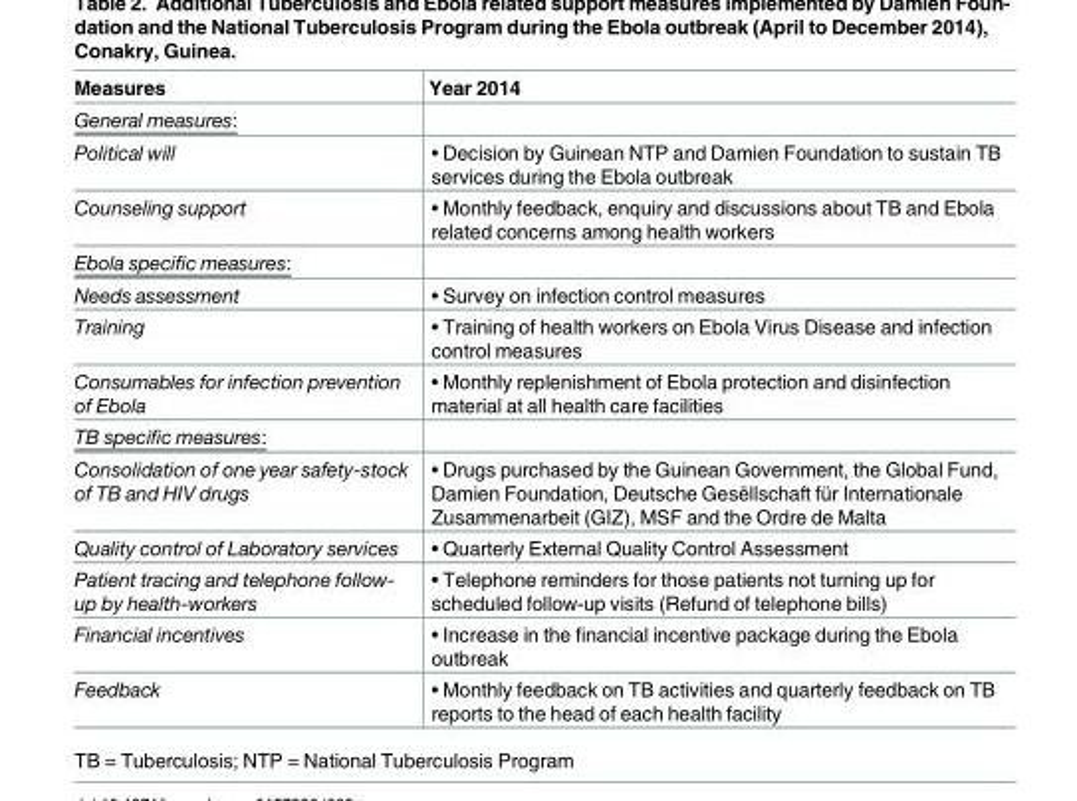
<table><thead><tr><td>Measures</td><td>Year 2014</td></tr></thead><tbody><tr><td colspan="2">General measures:</td></tr><tr><td>Political will</td><td>• Decision by Guinean NTP and Damien Foundation to sustain TB services during the Ebola outbreak</td></tr><tr><td>Counseling support</td><td>• Monthly feedback, enquiry and discussions about TB and Ebola related concerns among health workers</td></tr><tr><td colspan="2">Ebola specific measures:</td></tr><tr><td>Needs assessment</td><td>• Survey on infection control measures</td></tr><tr><td>Training</td><td>• Training of health workers on Ebola Virus Disease and infection control measures</td></tr><tr><td>Consumables for infection prevention of Ebola</td><td>• Monthly replenishment of Ebola protection and disinfection material at all health care facilities</td></tr><tr><td colspan="2">TB specific measures:</td></tr><tr><td>Consolidation of one year safety-stock of TB and HIV drugs</td><td>• Drugs purchased by the Guinean Government, the Global Fund, Damien Foundation, Deutsche Gesëllschaft für Internationale Zusammenarbeit (GIZ), MSF and the Ordre de Malta</td></tr><tr><td>Quality control of Laboratory services</td><td>• Quarterly External Quality Control Assessment</td></tr><tr><td>Patient tracing and telephone follow- up by health-workers</td><td>• Telephone reminders for those patients not turning up for scheduled follow-up visits (Refund of telephone bills)</td></tr><tr><td>Financial incentives</td><td>• Increase in the financial incentive package during the Ebola outbreak</td></tr><tr><td>Feedback</td><td>• Monthly feedback on TB activities and quarterly feedback on TB reports to the head of each health facility</td></tr></tbody></table>